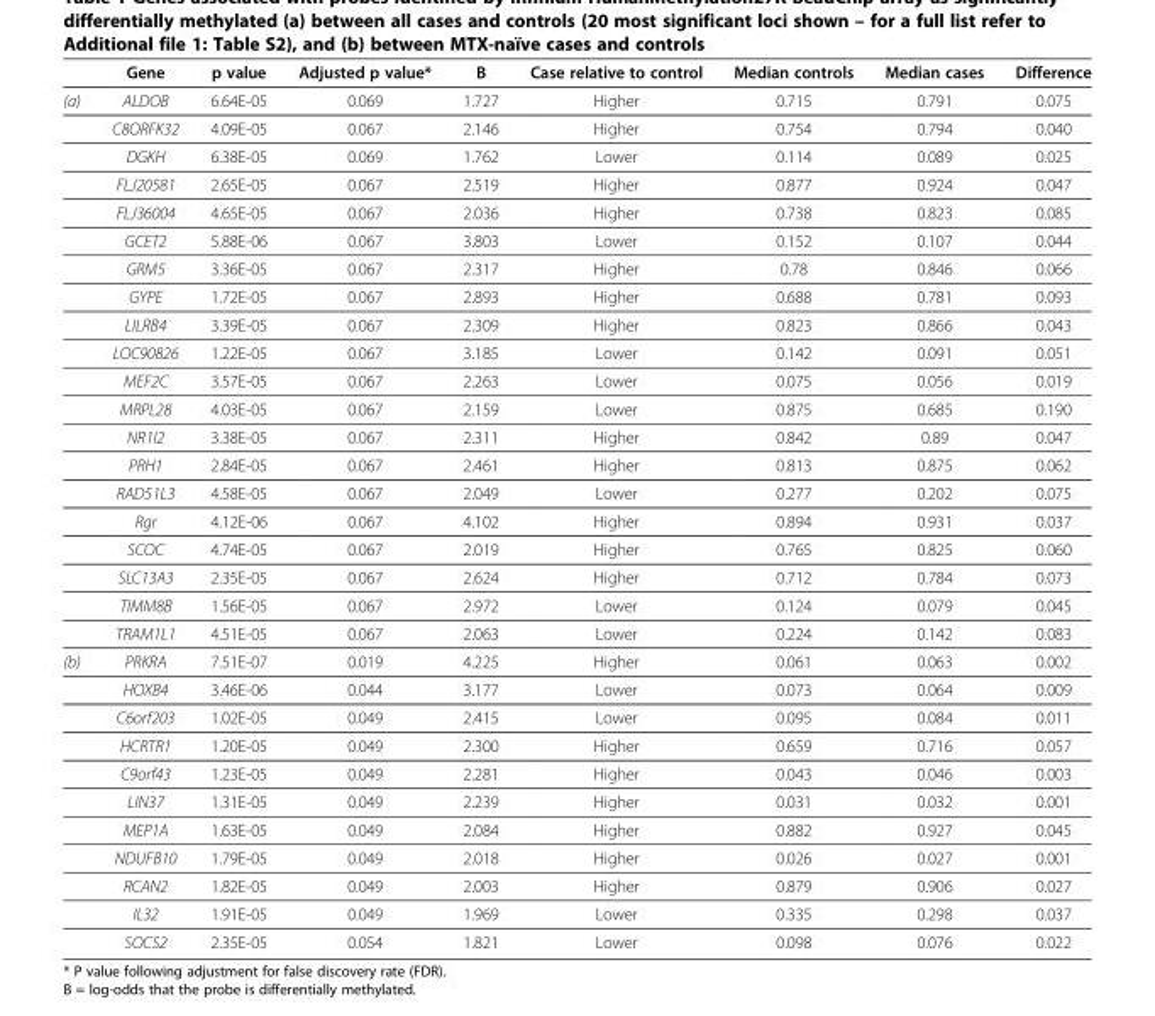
<table><thead><tr><td></td><td>Gene</td><td>p value</td><td>Adjusted p value*</td><td>B</td><td>Case relative to control</td><td>Median controls</td><td>Median cases</td><td>Difference</td></tr></thead><tbody><tr><td rowspan="20">(a)</td><td>ALDOB</td><td>6.64E-05</td><td>0.069</td><td>1.727</td><td>Higher</td><td>0.715</td><td>0.791</td><td>0.075</td></tr><tr><td>C8ORFK32</td><td>4.09E-05</td><td>0.067</td><td>2.146</td><td>Higher</td><td>0.754</td><td>0.794</td><td>0.040</td></tr><tr><td>DGKH</td><td>6.38E-05</td><td>0.069</td><td>1.762</td><td>Lower</td><td>0.114</td><td>0.089</td><td>0.025</td></tr><tr><td>FLJ20581</td><td>2.65E-05</td><td>0.067</td><td>2.519</td><td>Higher</td><td>0.877</td><td>0.924</td><td>0.047</td></tr><tr><td>FLJ36004</td><td>4.65E-05</td><td>0.067</td><td>2.036</td><td>Higher</td><td>0.738</td><td>0.823</td><td>0.085</td></tr><tr><td>GCET2</td><td>5.88E-06</td><td>0.067</td><td>3.803</td><td>Lower</td><td>0.152</td><td>0.107</td><td>0.044</td></tr><tr><td>GRM5</td><td>3.36E-05</td><td>0.067</td><td>2.317</td><td>Higher</td><td>0.78</td><td>0.846</td><td>0.066</td></tr><tr><td>GYPE</td><td>1.72E-05</td><td>0.067</td><td>2.893</td><td>Higher</td><td>0.688</td><td>0.781</td><td>0.093</td></tr><tr><td>LILRB4</td><td>3.39E-05</td><td>0.067</td><td>2.309</td><td>Higher</td><td>0.823</td><td>0.866</td><td>0.043</td></tr><tr><td>LOC90826</td><td>1.22E-05</td><td>0.067</td><td>3.185</td><td>Lower</td><td>0.142</td><td>0.091</td><td>0.051</td></tr><tr><td>MEF2C</td><td>3.57E-05</td><td>0.067</td><td>2.263</td><td>Lower</td><td>0.075</td><td>0.056</td><td>0.019</td></tr><tr><td>MRPL28</td><td>4.03E-05</td><td>0.067</td><td>2.159</td><td>Lower</td><td>0.875</td><td>0.685</td><td>0.190</td></tr><tr><td>NR1I2</td><td>3.38E-05</td><td>0.067</td><td>2.311</td><td>Higher</td><td>0.842</td><td>0.89</td><td>0.047</td></tr><tr><td>PRH1</td><td>2.84E-05</td><td>0.067</td><td>2.461</td><td>Higher</td><td>0.813</td><td>0.875</td><td>0.062</td></tr><tr><td>RAD51L3</td><td>4.58E-05</td><td>0.067</td><td>2.049</td><td>Lower</td><td>0.277</td><td>0.202</td><td>0.075</td></tr><tr><td>Rgr</td><td>4.12E-06</td><td>0.067</td><td>4.102</td><td>Higher</td><td>0.894</td><td>0.931</td><td>0.037</td></tr><tr><td>SCOC</td><td>4.74E-05</td><td>0.067</td><td>2.019</td><td>Higher</td><td>0.765</td><td>0.825</td><td>0.060</td></tr><tr><td>SLC13A3</td><td>2.35E-05</td><td>0.067</td><td>2.624</td><td>Higher</td><td>0.712</td><td>0.784</td><td>0.073</td></tr><tr><td>TIMM8B</td><td>1.56E-05</td><td>0.067</td><td>2.972</td><td>Lower</td><td>0.124</td><td>0.079</td><td>0.045</td></tr><tr><td>TRAM1L1</td><td>4.51E-05</td><td>0.067</td><td>2.063</td><td>Lower</td><td>0.224</td><td>0.142</td><td>0.083</td></tr><tr><td rowspan="11">(b)</td><td>PRKRA</td><td>7.51E-07</td><td>0.019</td><td>4.225</td><td>Higher</td><td>0.061</td><td>0.063</td><td>0.002</td></tr><tr><td>HOXB4</td><td>3.46E-06</td><td>0.044</td><td>3.177</td><td>Lower</td><td>0.073</td><td>0.064</td><td>0.009</td></tr><tr><td>C6orf203</td><td>1.02E-05</td><td>0.049</td><td>2.415</td><td>Lower</td><td>0.095</td><td>0.084</td><td>0.011</td></tr><tr><td>HCRTR1</td><td>1.20E-05</td><td>0.049</td><td>2.300</td><td>Higher</td><td>0.659</td><td>0.716</td><td>0.057</td></tr><tr><td>C9orf43</td><td>1.23E-05</td><td>0.049</td><td>2.281</td><td>Higher</td><td>0.043</td><td>0.046</td><td>0.003</td></tr><tr><td>LIN37</td><td>1.31E-05</td><td>0.049</td><td>2.239</td><td>Higher</td><td>0.031</td><td>0.032</td><td>0.001</td></tr><tr><td>MEP1A</td><td>1.63E-05</td><td>0.049</td><td>2.084</td><td>Higher</td><td>0.882</td><td>0.927</td><td>0.045</td></tr><tr><td>NDUFB10</td><td>1.79E-05</td><td>0.049</td><td>2.018</td><td>Higher</td><td>0.026</td><td>0.027</td><td>0.001</td></tr><tr><td>RCAN2</td><td>1.82E-05</td><td>0.049</td><td>2.003</td><td>Higher</td><td>0.879</td><td>0.906</td><td>0.027</td></tr><tr><td>IL32</td><td>1.91E-05</td><td>0.049</td><td>1.969</td><td>Lower</td><td>0.335</td><td>0.298</td><td>0.037</td></tr><tr><td>SOCS2</td><td>2.35E-05</td><td>0.054</td><td>1.821</td><td>Lower</td><td>0.098</td><td>0.076</td><td>0.022</td></tr></tbody></table>